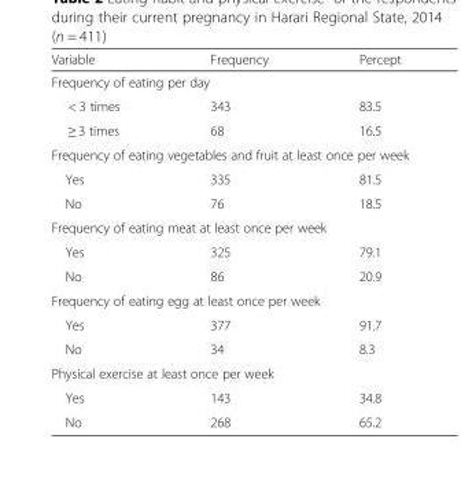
<table><thead><tr><td>Variable</td><td>Frequency</td><td>Percept</td></tr></thead><tbody><tr><td colspan="3">Frequency of eating per day</td></tr><tr><td>&lt; 3 times</td><td>343</td><td>83.5</td></tr><tr><td>≥ 3 times</td><td>68</td><td>16.5</td></tr><tr><td colspan="3">Frequency of eating vegetables and fruit at least once per week</td></tr><tr><td>Yes</td><td>335</td><td>81.5</td></tr><tr><td>No</td><td>76</td><td>18.5</td></tr><tr><td colspan="3">Frequency of eating meat at least once per week</td></tr><tr><td>Yes</td><td>325</td><td>79.1</td></tr><tr><td>No</td><td>86</td><td>20.9</td></tr><tr><td colspan="3">Frequency of eating egg at least once per week</td></tr><tr><td>Yes</td><td>377</td><td>91.7</td></tr><tr><td>No</td><td>34</td><td>8.3</td></tr><tr><td colspan="3">Physical exercise at least once per week</td></tr><tr><td>Yes</td><td>143</td><td>34.8</td></tr><tr><td>No</td><td>268</td><td>65.2</td></tr></tbody></table>